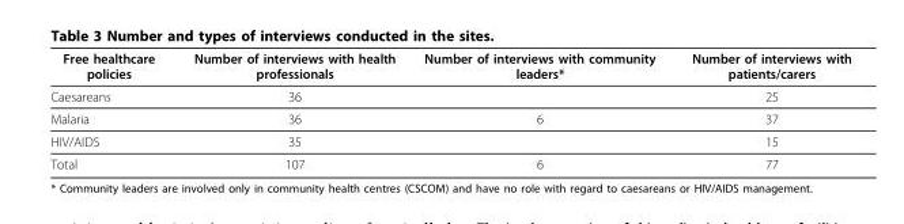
<table><thead><tr><td>Free healthcare policies</td><td>Number of interviews with health professionals</td><td>Number of interviews with community leaders*</td><td>Number of interviews with patients/carers</td></tr></thead><tbody><tr><td>Caesareans</td><td>36</td><td></td><td>25</td></tr><tr><td>Malaria</td><td>36</td><td>6</td><td>37</td></tr><tr><td>HIV/AIDS</td><td>35</td><td></td><td>15</td></tr><tr><td>Total</td><td>107</td><td>6</td><td>77</td></tr></tbody></table>